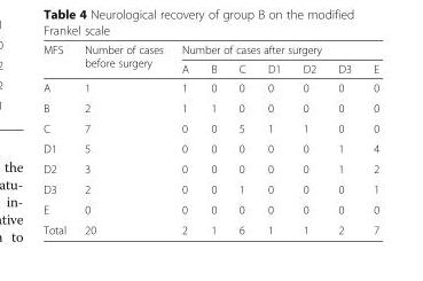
<table><thead><tr><td rowspan="2">MFS</td><td rowspan="2">Number of cases before surgery</td><td colspan="7">Number of cases after surgery</td></tr><tr><td>A</td><td>B</td><td>C</td><td>D1</td><td>D2</td><td>D3</td><td>E</td></tr></thead><tbody><tr><td>A</td><td>1</td><td>1</td><td>0</td><td>0</td><td>0</td><td>0</td><td>0</td><td>0</td></tr><tr><td>B</td><td>2</td><td>1</td><td>1</td><td>0</td><td>0</td><td>0</td><td>0</td><td>0</td></tr><tr><td>C</td><td>7</td><td>0</td><td>0</td><td>5</td><td>1</td><td>1</td><td>0</td><td>0</td></tr><tr><td>D1</td><td>5</td><td>0</td><td>0</td><td>0</td><td>0</td><td>0</td><td>1</td><td>4</td></tr><tr><td>D2</td><td>3</td><td>0</td><td>0</td><td>0</td><td>0</td><td>0</td><td>1</td><td>2</td></tr><tr><td>D3</td><td>2</td><td>0</td><td>0</td><td>1</td><td>0</td><td>0</td><td>0</td><td>1</td></tr><tr><td>E</td><td>0</td><td>0</td><td>0</td><td>0</td><td>0</td><td>0</td><td>0</td><td>0</td></tr><tr><td>Total</td><td>20</td><td>2</td><td>1</td><td>6</td><td>1</td><td>1</td><td>2</td><td>7</td></tr></tbody></table>